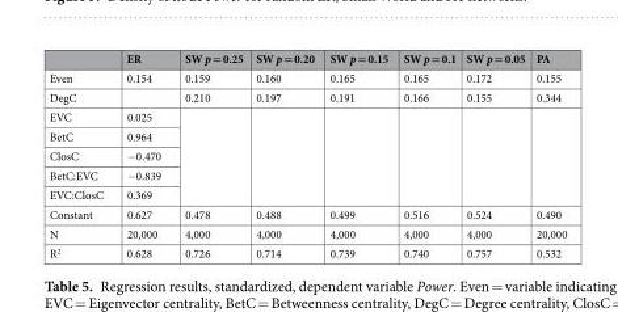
<table><thead><tr><td></td><td>ER</td><td>SW p = 0.25</td><td>SW p = 0.20</td><td>SW p = 0.15</td><td>SW p = 0.1</td><td>SW p = 0.05</td><td>PA</td></tr></thead><tbody><tr><td>Even</td><td>0.154</td><td>0.159</td><td>0.160</td><td>0.165</td><td>0.165</td><td>0.172</td><td>0.155</td></tr><tr><td>DegC</td><td></td><td>0.210</td><td>0.197</td><td>0.191</td><td>0.166</td><td>0.155</td><td>0.344</td></tr><tr><td>EVC</td><td>0.025</td><td rowspan="5"></td><td rowspan="5"></td><td rowspan="5"></td><td rowspan="5"></td><td rowspan="5"></td><td rowspan="5"></td></tr><tr><td>BetC</td><td>0.964</td></tr><tr><td>ClosC</td><td>−0.470</td></tr><tr><td>BetC:EVC</td><td>−0.839</td></tr><tr><td>EVC:ClosC</td><td>0.369</td></tr><tr><td>Constant</td><td>0.627</td><td>0.478</td><td>0.488</td><td>0.499</td><td>0.516</td><td>0.524</td><td>0.490</td></tr><tr><td>N</td><td>20,000</td><td>4,000</td><td>4,000</td><td>4,000</td><td>4,000</td><td>4,000</td><td>20,000</td></tr><tr><td>R<sup>2</sup></td><td>0.628</td><td>0.726</td><td>0.714</td><td>0.739</td><td>0.740</td><td>0.757</td><td>0.532</td></tr></tbody></table>